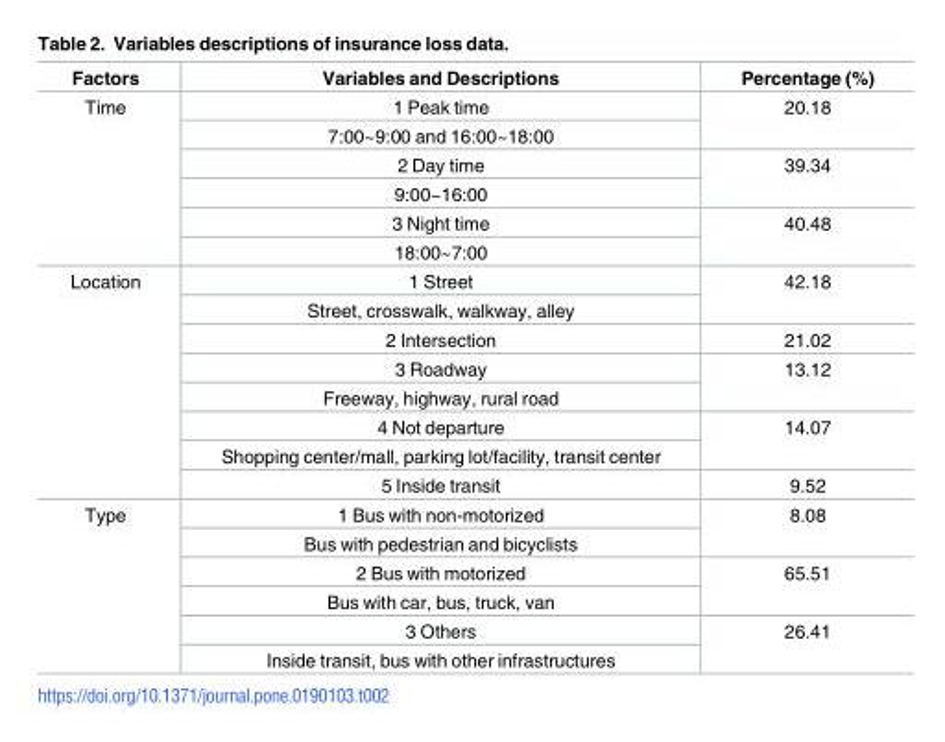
<table><thead><tr><td>Factors</td><td>Variables and Descriptions</td><td>Percentage (%)</td></tr></thead><tbody><tr><td rowspan="6">Time</td><td>1 Peak time</td><td rowspan="2">20.18</td></tr><tr><td>7:00~9:00 and 16:00~18:00</td></tr><tr><td>2 Day time</td><td rowspan="2">39.34</td></tr><tr><td>9:00~16:00</td></tr><tr><td>3 Night time</td><td rowspan="2">40.48</td></tr><tr><td>18:00~7:00</td></tr><tr><td rowspan="8">Location</td><td>1 Street</td><td rowspan="2">42.18</td></tr><tr><td>Street, crosswalk, walkway, alley</td></tr><tr><td>2 Intersection</td><td>21.02</td></tr><tr><td>3 Roadway</td><td rowspan="2">13.12</td></tr><tr><td>Freeway, highway, rural road</td></tr><tr><td>4 Not departure</td><td rowspan="2">14.07</td></tr><tr><td>Shopping center/mall, parking lot/facility, transit center</td></tr><tr><td>5 Inside transit</td><td>9.52</td></tr><tr><td rowspan="6">Type</td><td>1 Bus with non-motorized</td><td rowspan="2">8.08</td></tr><tr><td>Bus with pedestrian and bicyclists</td></tr><tr><td>2 Bus with motorized</td><td rowspan="2">65.51</td></tr><tr><td>Bus with car, bus, truck, van</td></tr><tr><td>3 Others</td><td rowspan="2">26.41</td></tr><tr><td>Inside transit, bus with other infrastructures</td></tr></tbody></table>